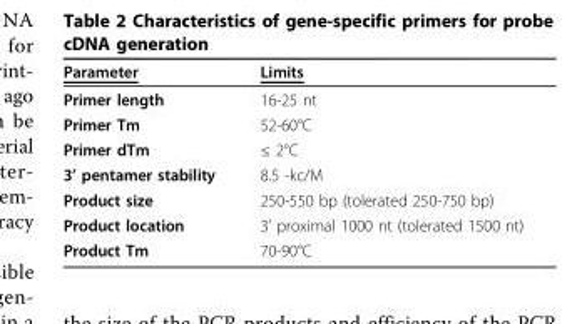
<table><thead><tr><td>Parameter</td><td>Limits</td></tr></thead><tbody><tr><td>Primer length</td><td>16-25 nt</td></tr><tr><td>Primer Tm</td><td>52-60°C</td></tr><tr><td>Primer dTm</td><td>≤ 2°C</td></tr><tr><td>3’ pentamer stability</td><td>8.5 -kc/M</td></tr><tr><td>Product size</td><td>250-550 bp (tolerated 250-750 bp)</td></tr><tr><td>Product location</td><td>3’ proximal 1000 nt (tolerated 1500 nt)</td></tr><tr><td>Product Tm</td><td>70-90°C</td></tr></tbody></table>